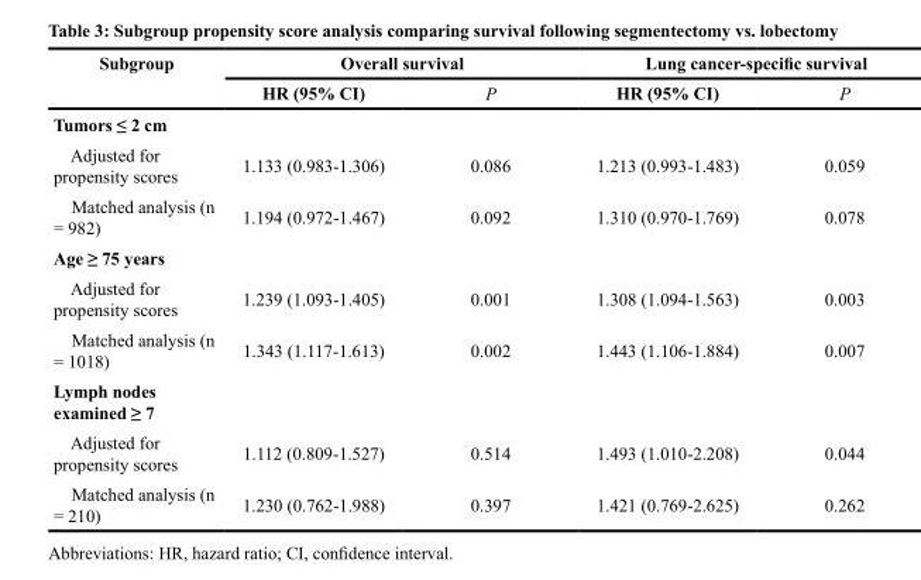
<table><thead><tr><td rowspan="2">Subgroup</td><td colspan="2">Overall survival</td><td colspan="2">Lung cancer-specific survival</td></tr><tr><td>HR (95% CI)</td><td>P</td><td>HR (95% CI)</td><td>P</td></tr></thead><tbody><tr><td colspan="5">Tumors ≤ 2 cm</td></tr><tr><td>Adjusted for propensity scores</td><td>1.133 (0.983-1.306)</td><td>0.086</td><td>1.213 (0.993-1.483)</td><td>0.059</td></tr><tr><td>Matched analysis (n = 982)</td><td>1.194 (0.972-1.467)</td><td>0.092</td><td>1.310 (0.970-1.769)</td><td>0.078</td></tr><tr><td colspan="5">Age ≥ 75 years</td></tr><tr><td>Adjusted for propensity scores</td><td>1.239 (1.093-1.405)</td><td>0.001</td><td>1.308 (1.094-1.563)</td><td>0.003</td></tr><tr><td>Matched analysis (n = 1018)</td><td>1.343 (1.117-1.613)</td><td>0.002</td><td>1.443 (1.106-1.884)</td><td>0.007</td></tr><tr><td colspan="5">Lymph nodes examined ≥ 7</td></tr><tr><td>Adjusted for propensity scores</td><td>1.112 (0.809-1.527)</td><td>0.514</td><td>1.493 (1.010-2.208)</td><td>0.044</td></tr><tr><td>Matched analysis (n = 210)</td><td>1.230 (0.762-1.988)</td><td>0.397</td><td>1.421 (0.769-2.625)</td><td>0.262</td></tr></tbody></table>